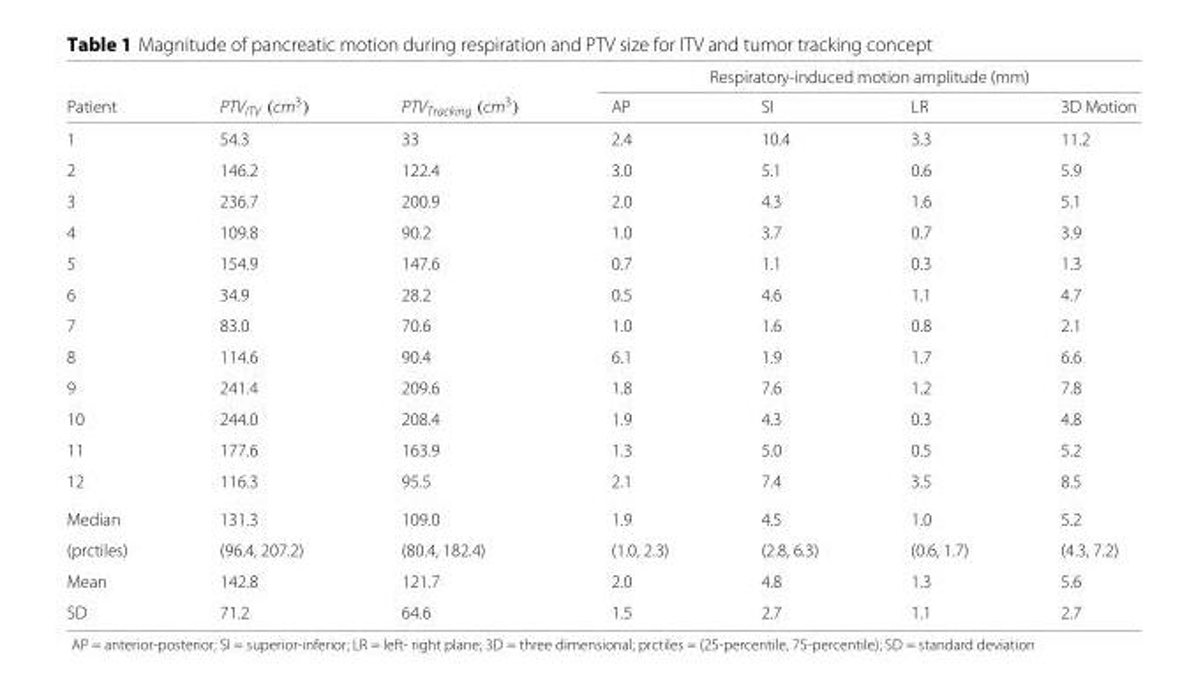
<table><thead><tr><td rowspan="2">Patient</td><td rowspan="2">PTV<sub>ITV</sub> (cm<sup>3</sup>)</td><td rowspan="2">PTV<sub>Tracking</sub> (cm<sup>3</sup>)</td><td colspan="4">Respiratory-induced motion amplitude (mm)</td></tr><tr><td>AP</td><td>SI</td><td>LR</td><td>3D Motion</td></tr></thead><tbody><tr><td>1</td><td>54.3</td><td>33</td><td>2.4</td><td>10.4</td><td>3.3</td><td>11.2</td></tr><tr><td>2</td><td>146.2</td><td>122.4</td><td>3.0</td><td>5.1</td><td>0.6</td><td>5.9</td></tr><tr><td>3</td><td>236.7</td><td>200.9</td><td>2.0</td><td>4.3</td><td>1.6</td><td>5.1</td></tr><tr><td>4</td><td>109.8</td><td>90.2</td><td>1.0</td><td>3.7</td><td>0.7</td><td>3.9</td></tr><tr><td>5</td><td>154.9</td><td>147.6</td><td>0.7</td><td>1.1</td><td>0.3</td><td>1.3</td></tr><tr><td>6</td><td>34.9</td><td>28.2</td><td>0.5</td><td>4.6</td><td>1.1</td><td>4.7</td></tr><tr><td>7</td><td>83.0</td><td>70.6</td><td>1.0</td><td>1.6</td><td>0.8</td><td>2.1</td></tr><tr><td>8</td><td>114.6</td><td>90.4</td><td>6.1</td><td>1.9</td><td>1.7</td><td>6.6</td></tr><tr><td>9</td><td>241.4</td><td>209.6</td><td>1.8</td><td>7.6</td><td>1.2</td><td>7.8</td></tr><tr><td>10</td><td>244.0</td><td>208.4</td><td>1.9</td><td>4.3</td><td>0.3</td><td>4.8</td></tr><tr><td>11</td><td>177.6</td><td>163.9</td><td>1.3</td><td>5.0</td><td>0.5</td><td>5.2</td></tr><tr><td>12</td><td>116.3</td><td>95.5</td><td>2.1</td><td>7.4</td><td>3.5</td><td>8.5</td></tr><tr><td>Median</td><td>131.3</td><td>109.0</td><td>1.9</td><td>4.5</td><td>1.0</td><td>5.2</td></tr><tr><td>(prctiles)</td><td>(96.4, 207.2)</td><td>(80.4, 182.4)</td><td>(1.0, 2.3)</td><td>(2.8, 6.3)</td><td>(0.6, 1.7)</td><td>(4.3, 7.2)</td></tr><tr><td>Mean</td><td>142.8</td><td>121.7</td><td>2.0</td><td>4.8</td><td>1.3</td><td>5.6</td></tr><tr><td>SD</td><td>71.2</td><td>64.6</td><td>1.5</td><td>2.7</td><td>1.1</td><td>2.7</td></tr></tbody></table>